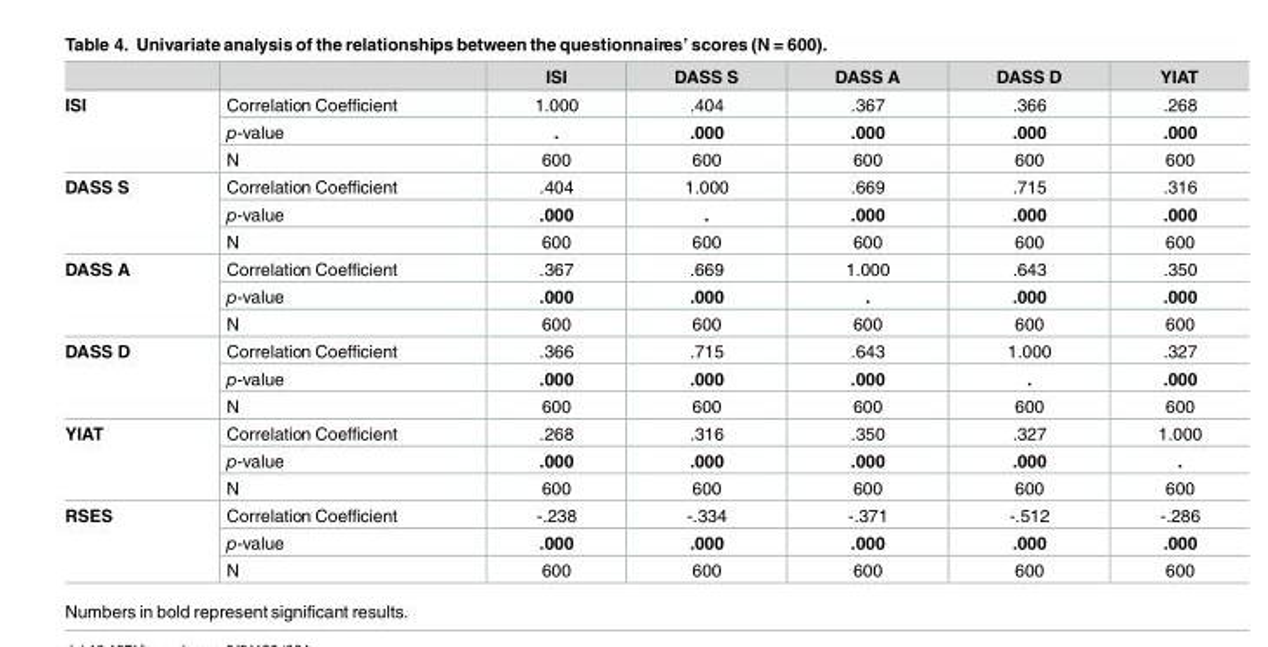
<table><thead><tr><td></td><td></td><td>ISI</td><td>DASS S</td><td>DASS A</td><td>DASS D</td><td>YIAT</td></tr></thead><tbody><tr><td rowspan="3">ISI</td><td>Correlation Coefficient</td><td>1.000</td><td>.404</td><td>.367</td><td>.366</td><td>.268</td></tr><tr><td>p-value</td><td>.</td><td>.000</td><td>.000</td><td>.000</td><td>.000</td></tr><tr><td>N</td><td>600</td><td>600</td><td>600</td><td>600</td><td>600</td></tr><tr><td rowspan="3">DASS S</td><td>Correlation Coefficient</td><td>.404</td><td>1.000</td><td>.669</td><td>.715</td><td>.316</td></tr><tr><td>p-value</td><td>.000</td><td>.</td><td>.000</td><td>.000</td><td>.000</td></tr><tr><td>N</td><td>600</td><td>600</td><td>600</td><td>600</td><td>600</td></tr><tr><td rowspan="3">DASS A</td><td>Correlation Coefficient</td><td>.367</td><td>.669</td><td>1.000</td><td>.643</td><td>.350</td></tr><tr><td>p-value</td><td>.000</td><td>.000</td><td>.</td><td>.000</td><td>.000</td></tr><tr><td>N</td><td>600</td><td>600</td><td>600</td><td>600</td><td>600</td></tr><tr><td rowspan="3">DASS D</td><td>Correlation Coefficient</td><td>.366</td><td>.715</td><td>.643</td><td>1.000</td><td>.327</td></tr><tr><td>p-value</td><td>.000</td><td>.000</td><td>.000</td><td>.</td><td>.000</td></tr><tr><td>N</td><td>600</td><td>600</td><td>600</td><td>600</td><td>600</td></tr><tr><td rowspan="3">YIAT</td><td>Correlation Coefficient</td><td>.268</td><td>.316</td><td>.350</td><td>.327</td><td>1.000</td></tr><tr><td>p-value</td><td>.000</td><td>.000</td><td>.000</td><td>.000</td><td>.</td></tr><tr><td>N</td><td>600</td><td>600</td><td>600</td><td>600</td><td>600</td></tr><tr><td rowspan="3">RSES</td><td>Correlation Coefficient</td><td>-.238</td><td>-.334</td><td>-.371</td><td>-.512</td><td>-.286</td></tr><tr><td>p-value</td><td>.000</td><td>.000</td><td>.000</td><td>.000</td><td>.000</td></tr><tr><td>N</td><td>600</td><td>600</td><td>600</td><td>600</td><td>600</td></tr></tbody></table>